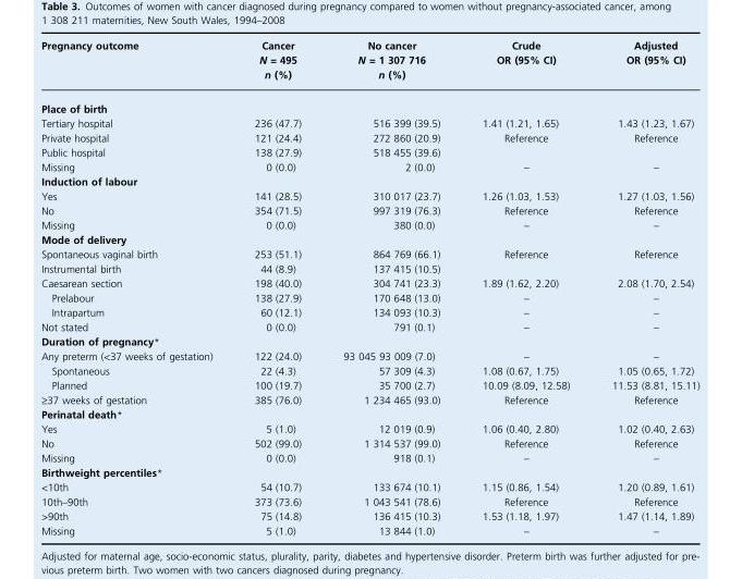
<table><thead><tr><td>Pregnancy outcome</td><td>Cancer N = 495 n (%)</td><td>No cancer N = 1 307 716 n (%)</td><td>Crude OR (95% CI)</td><td>Adjusted OR (95% CI)</td></tr></thead><tbody><tr><td colspan="5">Place of birth</td></tr><tr><td>Tertiary hospital</td><td>236 (47.7)</td><td>516 399 (39.5)</td><td>1.41 (1.21, 1.65)</td><td>1.43 (1.23, 1.67)</td></tr><tr><td>Private hospital</td><td>121 (24.4)</td><td>272 860 (20.9)</td><td>Reference</td><td>Reference</td></tr><tr><td>Public hospital</td><td>138 (27.9)</td><td>518 455 (39.6)</td><td></td><td></td></tr><tr><td>Missing</td><td>0 (0.0)</td><td>2 (0.0)</td><td>–</td><td>–</td></tr><tr><td colspan="5">Induction of labour</td></tr><tr><td>Yes</td><td>141 (28.5)</td><td>310 017 (23.7)</td><td>1.26 (1.03, 1.53)</td><td>1.27 (1.03, 1.56)</td></tr><tr><td>No</td><td>354 (71.5)</td><td>997 319 (76.3)</td><td>Reference</td><td>Reference</td></tr><tr><td>Missing</td><td>0 (0.0)</td><td>380 (0.0)</td><td>–</td><td>–</td></tr><tr><td colspan="5">Mode of delivery</td></tr><tr><td>Spontaneous vaginal birth</td><td>253 (51.1)</td><td>864 769 (66.1)</td><td>Reference</td><td>Reference</td></tr><tr><td>Instrumental birth</td><td>44 (8.9)</td><td>137 415 (10.5)</td><td></td><td></td></tr><tr><td>Caesarean section</td><td>198 (40.0)</td><td>304 741 (23.3)</td><td>1.89 (1.62, 2.20)</td><td>2.08 (1.70, 2.54)</td></tr><tr><td>Prelabour</td><td>138 (27.9)</td><td>170 648 (13.0)</td><td>–</td><td>–</td></tr><tr><td>Intrapartum</td><td>60 (12.1)</td><td>134 093 (10.3)</td><td>–</td><td>–</td></tr><tr><td>Not stated</td><td>0 (0.0)</td><td>791 (0.1)</td><td>–</td><td>–</td></tr><tr><td colspan="5">Duration of pregnancy*</td></tr><tr><td>Any preterm (&lt;37 weeks of gestation)</td><td>122 (24.0)</td><td>93 045 93 009 (7.0)</td><td>–</td><td>–</td></tr><tr><td>Spontaneous</td><td>22 (4.3)</td><td>57 309 (4.3)</td><td>1.08 (0.67, 1.75)</td><td>1.05 (0.65, 1.72)</td></tr><tr><td>Planned</td><td>100 (19.7)</td><td>35 700 (2.7)</td><td>10.09 (8.09, 12.58)</td><td>11.53 (8.81, 15.11)</td></tr><tr><td>‡37 weeks of gestation</td><td>385 (76.0)</td><td>1 234 465 (93.0)</td><td>Reference</td><td>Reference</td></tr><tr><td colspan="5">Perinatal death*</td></tr><tr><td>Yes</td><td>5 (1.0)</td><td>12 019 (0.9)</td><td>1.06 (0.40, 2.80)</td><td>1.02 (0.40, 2.63)</td></tr><tr><td>No</td><td>502 (99.0)</td><td>1 314 537 (99.0)</td><td>Reference</td><td>Reference</td></tr><tr><td>Missing</td><td>0 (0.0)</td><td>918 (0.1)</td><td>–</td><td>–</td></tr><tr><td colspan="5">Birthweight percentiles*</td></tr><tr><td>&lt;10th</td><td>54 (10.7)</td><td>133 674 (10.1)</td><td>1.15 (0.86, 1.54)</td><td>1.20 (0.89, 1.61)</td></tr><tr><td>10th–90th</td><td>373 (73.6)</td><td>1 043 541 (78.6)</td><td>Reference</td><td>Reference</td></tr><tr><td>&gt;90th</td><td>75 (14.8)</td><td>136 415 (10.3)</td><td>1.53 (1.18, 1.97)</td><td>1.47 (1.14, 1.89)</td></tr><tr><td>Missing</td><td>5 (1.0)</td><td>13 844 (1.0)</td><td>–</td><td>–</td></tr></tbody></table>